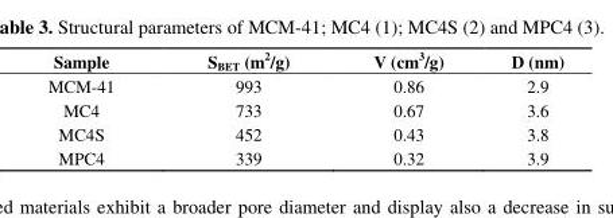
<table><thead><tr><td>Sample</td><td>S<sub>BET</sub> (m<sup>2</sup>/g)</td><td>V (cm<sup>3</sup>/g)</td><td>D (nm)</td></tr></thead><tbody><tr><td>MCM-41</td><td>993</td><td>0.86</td><td>2.9</td></tr><tr><td>MC4</td><td>733</td><td>0.67</td><td>3.6</td></tr><tr><td>MC4S</td><td>452</td><td>0.43</td><td>3.8</td></tr><tr><td>MPC4</td><td>339</td><td>0.32</td><td>3.9</td></tr></tbody></table>